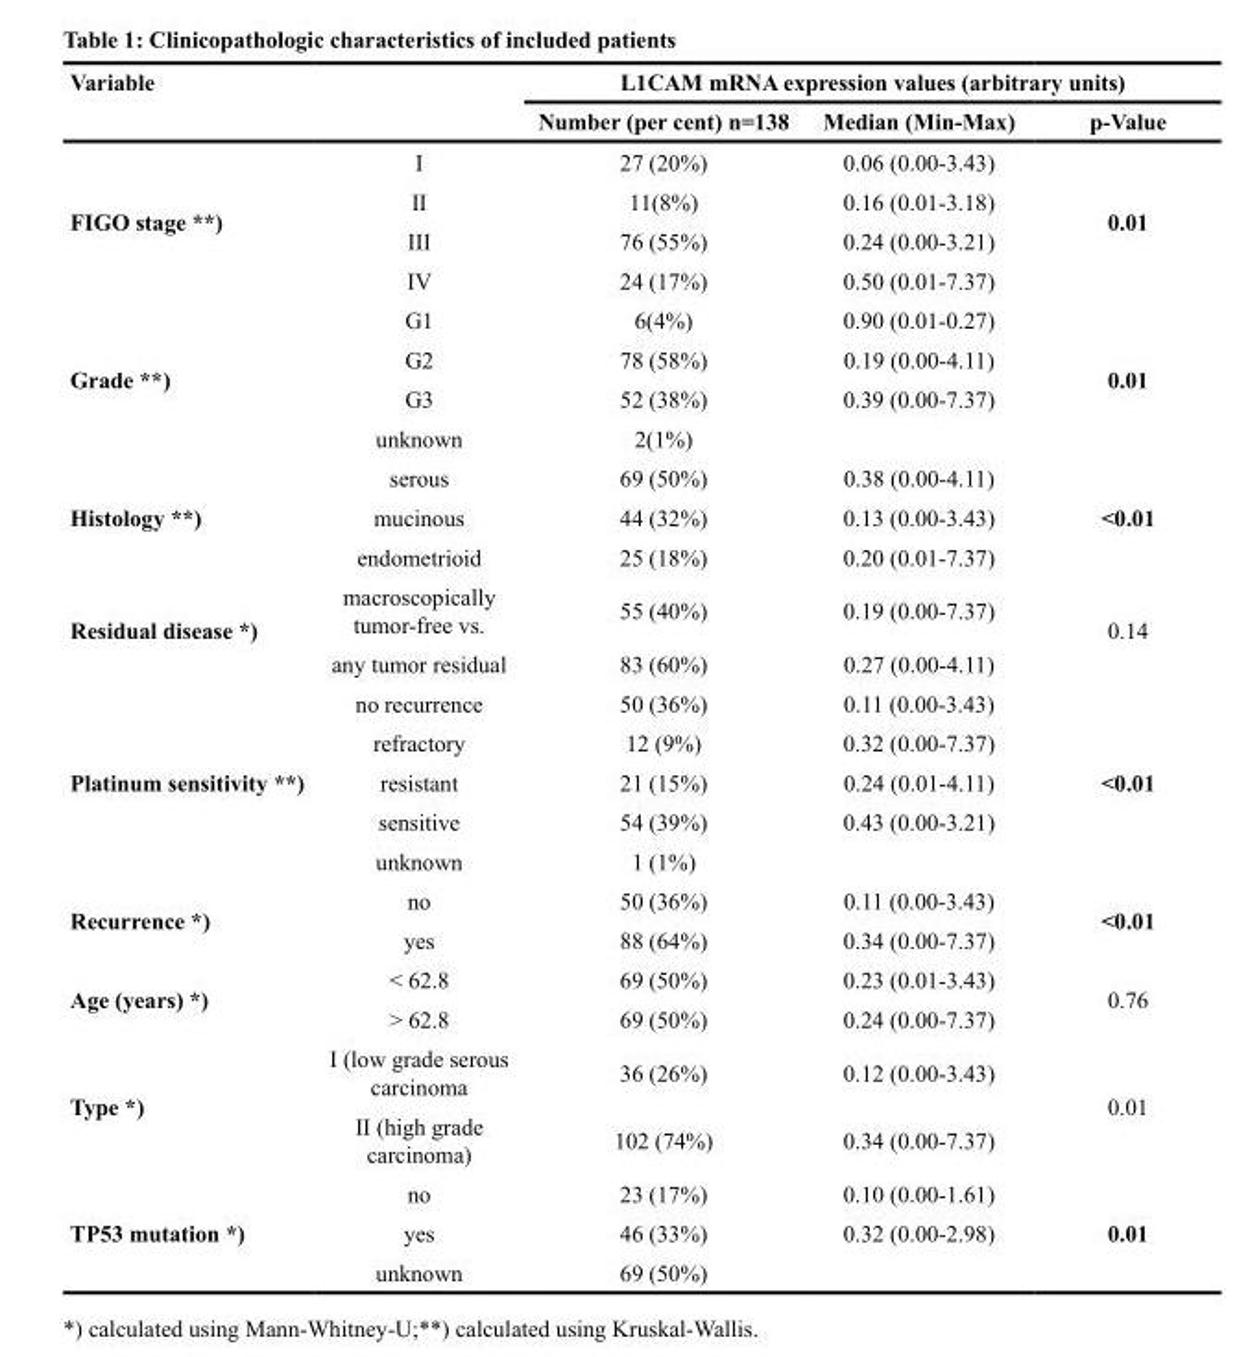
<table><thead><tr><td rowspan="2">Variable</td><td rowspan="2"></td><td colspan="3">L1CAM mRNA expression values (arbitrary units)</td></tr><tr><td>Number (per cent) n=138</td><td>Median (Min-Max)</td><td>p-Value</td></tr></thead><tbody><tr><td rowspan="4">FIGO stage **)</td><td>I</td><td>27 (20%)</td><td>0.06 (0.00-3.43)</td><td rowspan="4">0.01</td></tr><tr><td>II</td><td>11(8%)</td><td>0.16 (0.01-3.18)</td></tr><tr><td>III</td><td>76 (55%)</td><td>0.24 (0.00-3.21)</td></tr><tr><td>IV</td><td>24 (17%)</td><td>0.50 (0.01-7.37)</td></tr><tr><td rowspan="4">Grade **)</td><td>G1</td><td>6(4%)</td><td>0.90 (0.01-0.27)</td><td rowspan="4">0.01</td></tr><tr><td>G2</td><td>78 (58%)</td><td>0.19 (0.00-4.11)</td></tr><tr><td>G3</td><td>52 (38%)</td><td>0.39 (0.00-7.37)</td></tr><tr><td>unknown</td><td>2(1%)</td><td></td></tr><tr><td rowspan="3">Histology **)</td><td>serous</td><td>69 (50%)</td><td>0.38 (0.00-4.11)</td><td rowspan="3">&lt;0.01</td></tr><tr><td>mucinous</td><td>44 (32%)</td><td>0.13 (0.00-3.43)</td></tr><tr><td>endometrioid</td><td>25 (18%)</td><td>0.20 (0.01-7.37)</td></tr><tr><td rowspan="2">Residual disease *)</td><td>macroscopically tumor-free vs.</td><td>55 (40%)</td><td>0.19 (0.00-7.37)</td><td rowspan="2">0.14</td></tr><tr><td>any tumor residual</td><td>83 (60%)</td><td>0.27 (0.00-4.11)</td></tr><tr><td rowspan="5">Platinum sensitivity **)</td><td>no recurrence</td><td>50 (36%)</td><td>0.11 (0.00-3.43)</td><td rowspan="5">&lt;0.01</td></tr><tr><td>refractory</td><td>12 (9%)</td><td>0.32 (0.00-7.37)</td></tr><tr><td>resistant</td><td>21 (15%)</td><td>0.24 (0.01-4.11)</td></tr><tr><td>sensitive</td><td>54 (39%)</td><td>0.43 (0.00-3.21)</td></tr><tr><td>unknown</td><td>1 (1%)</td><td></td></tr><tr><td rowspan="2">Recurrence *)</td><td>no</td><td>50 (36%)</td><td>0.11 (0.00-3.43)</td><td rowspan="2">&lt;0.01</td></tr><tr><td>yes</td><td>88 (64%)</td><td>0.34 (0.00-7.37)</td></tr><tr><td rowspan="2">Age (years) *)</td><td>&lt; 62.8</td><td>69 (50%)</td><td>0.23 (0.01-3.43)</td><td rowspan="2">0.76</td></tr><tr><td>&gt; 62.8</td><td>69 (50%)</td><td>0.24 (0.00-7.37)</td></tr><tr><td rowspan="2">Type *)</td><td>I (low grade serous carcinoma</td><td>36 (26%)</td><td>0.12 (0.00-3.43)</td><td rowspan="2">0.01</td></tr><tr><td>II (high grade carcinoma)</td><td>102 (74%)</td><td>0.34 (0.00-7.37)</td></tr><tr><td rowspan="3">TP53 mutation *)</td><td>no</td><td>23 (17%)</td><td>0.10 (0.00-1.61)</td><td rowspan="3">0.01</td></tr><tr><td>yes</td><td>46 (33%)</td><td>0.32 (0.00-2.98)</td></tr><tr><td>unknown</td><td>69 (50%)</td><td></td></tr></tbody></table>